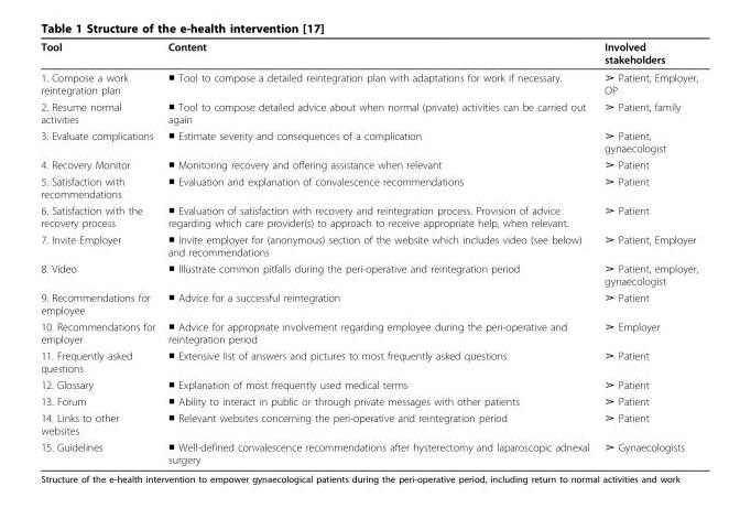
<table><thead><tr><td>Tool</td><td>Content</td><td>Involved stakeholders</td></tr></thead><tbody><tr><td>1. Compose a work reintegration plan</td><td>■ Tool to compose a detailed reintegration plan with adaptations for work if necessary.</td><td>➢ Patient, Employer, OP</td></tr><tr><td>2. Resume normal activities</td><td>■ Tool to compose detailed advice about when normal (private) activities can be carried out again</td><td>➢ Patient, family</td></tr><tr><td>3. Evaluate complications</td><td>■ Estimate severity and consequences of a complication</td><td>➢ Patient, gynaecologist</td></tr><tr><td>4. Recovery Monitor</td><td>■ Monitoring recovery and offering assistance when relevant</td><td>➢ Patient</td></tr><tr><td>5. Satisfaction with recommendations</td><td>■ Evaluation and explanation of convalescence recommendations</td><td>➢ Patient</td></tr><tr><td>6. Satisfaction with the recovery process</td><td>■ Evaluation of satisfaction with recovery and reintegration process. Provision of advice regarding which care provider(s) to approach to receive appropriate help, when relevant.</td><td>➢ Patient</td></tr><tr><td>7. Invite Employer</td><td>■ Invite employer for (anonymous) section of the website which includes video (see below) and recommendations</td><td>➢ Patient, Employer</td></tr><tr><td>8. Video</td><td>■ Illustrate common pitfalls during the peri-operative and reintegration period</td><td>➢ Patient, employer, gynaecologist</td></tr><tr><td>9. Recommendations for employee</td><td>■ Advice for a successful reintegration</td><td>➢ Patient</td></tr><tr><td>10. Recommendations for employer</td><td>■ Advice for appropriate involvement regarding employee during the peri-operative and reintegration period</td><td>➢ Employer</td></tr><tr><td>11. Frequently asked questions</td><td>■ Extensive list of answers and pictures to most frequently asked questions</td><td>➢ Patient</td></tr><tr><td>12. Glossary</td><td>■ Explanation of most frequently used medical terms</td><td>➢ Patient</td></tr><tr><td>13. Forum</td><td>■ Ability to interact in public or through private messages with other patients</td><td>➢ Patient</td></tr><tr><td>14. Links to other websites</td><td>■ Relevant websites concerning the peri-operative and reintegration period</td><td>➢ Patient</td></tr><tr><td>15. Guidelines</td><td>■ Well-defined convalescence recommendations after hysterectomy and laparoscopic adnexal surgery</td><td>➢ Gynaecologists</td></tr></tbody></table>